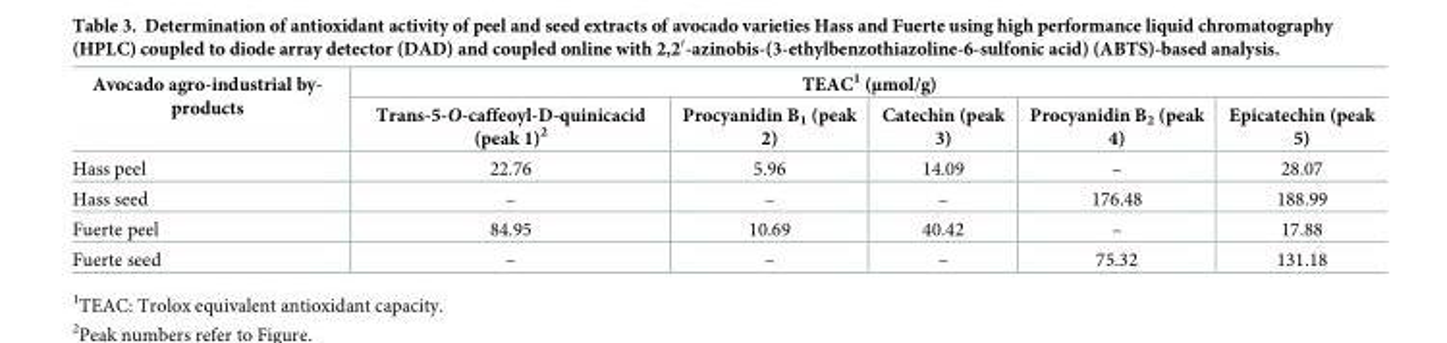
<table><thead><tr><td rowspan="2">Avocado agro-industrial by- products</td><td colspan="5">TEAC<sup>1</sup> (μmol/g)</td></tr><tr><td>Trans-5-O-caffeoyl-D-quinicacid (peak 1)<sup>2</sup></td><td>Procyanidin B<sub>1</sub> (peak 2)</td><td>Catechin (peak 3)</td><td>Procyanidin B<sub>2</sub> (peak 4)</td><td>Epicatechin (peak 5)</td></tr></thead><tbody><tr><td>Hass peel</td><td>22.76</td><td>5.96</td><td>14.09</td><td>–</td><td>28.07</td></tr><tr><td>Hass seed</td><td>–</td><td>–</td><td>–</td><td>176.48</td><td>188.99</td></tr><tr><td>Fuerte peel</td><td>84.95</td><td>10.69</td><td>40.42</td><td>–</td><td>17.88</td></tr><tr><td>Fuerte seed</td><td>–</td><td>–</td><td>–</td><td>75.32</td><td>131.18</td></tr></tbody></table>